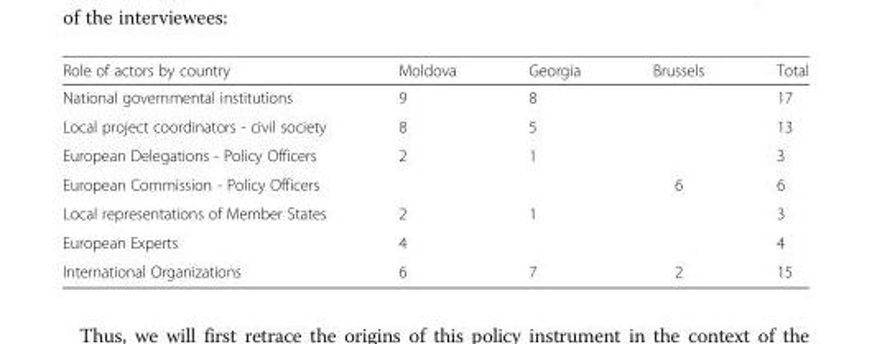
<table><thead><tr><td>Role of actors by country</td><td>Moldova</td><td>Georgia</td><td>Brussels</td><td>Total</td></tr></thead><tbody><tr><td>National governmental institutions</td><td>9</td><td>8</td><td></td><td>17</td></tr><tr><td>Local project coordinators - civil society</td><td>8</td><td>5</td><td></td><td>13</td></tr><tr><td>European Delegations - Policy Officers</td><td>2</td><td>1</td><td></td><td>3</td></tr><tr><td>European Commission - Policy Officers</td><td></td><td></td><td>6</td><td>6</td></tr><tr><td>Local representations of Member States</td><td>2</td><td>1</td><td></td><td>3</td></tr><tr><td>European Experts</td><td>4</td><td></td><td></td><td>4</td></tr><tr><td>International Organizations</td><td>6</td><td>7</td><td>2</td><td>15</td></tr></tbody></table>